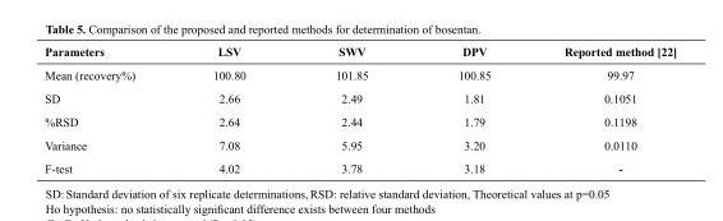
<table><thead><tr><td>Parameters</td><td>LSV</td><td>SWV</td><td>DPV</td><td>Reported method [22]</td></tr></thead><tbody><tr><td>Mean (recovery%)</td><td>100.80</td><td>101.85</td><td>100.85</td><td>99.97</td></tr><tr><td>SD</td><td>2.66</td><td>2.49</td><td>1.81</td><td>0.1051</td></tr><tr><td>%RSD</td><td>2.64</td><td>2.44</td><td>1.79</td><td>0.1198</td></tr><tr><td>Variance</td><td>7.08</td><td>5.95</td><td>3.20</td><td>0.0110</td></tr><tr><td>F-test</td><td>4.02</td><td>3.78</td><td>3.18</td><td>-</td></tr></tbody></table>